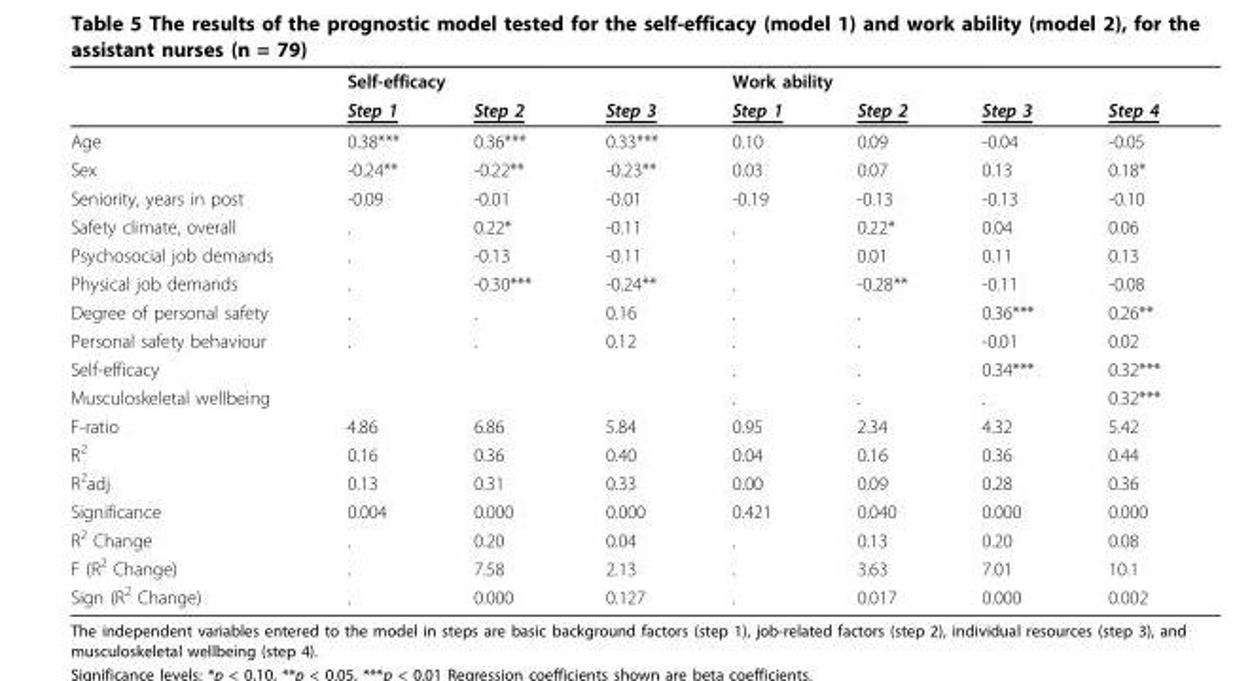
<table><thead><tr><td rowspan="2"></td><td colspan="3">Self-efficacy</td><td colspan="4">Work ability</td></tr><tr><td>Step 1</td><td>Step 2</td><td>Step 3</td><td>Step 1</td><td>Step 2</td><td>Step 3</td><td>Step 4</td></tr></thead><tbody><tr><td>Age</td><td>0.38***</td><td>0.36***</td><td>0.33***</td><td>0.10</td><td>0.09</td><td>-0.04</td><td>-0.05</td></tr><tr><td>Sex</td><td>-0.24**</td><td>-0.22**</td><td>-0.23**</td><td>0.03</td><td>0.07</td><td>0.13</td><td>0.18*</td></tr><tr><td>Seniority, years in post</td><td>-0.09</td><td>-0.01</td><td>-0.01</td><td>-0.19</td><td>-0.13</td><td>-0.13</td><td>-0.10</td></tr><tr><td>Safety climate, overall</td><td>.</td><td>0.22*</td><td>-0.11</td><td>.</td><td>0.22*</td><td>0.04</td><td>0.06</td></tr><tr><td>Psychosocial job demands</td><td>.</td><td>-0.13</td><td>-0.11</td><td>.</td><td>0.01</td><td>0.11</td><td>0.13</td></tr><tr><td>Physical job demands</td><td>.</td><td>-0.30***</td><td>-0.24**</td><td>.</td><td>-0.28**</td><td>-0.11</td><td>-0.08</td></tr><tr><td>Degree of personal safety</td><td>.</td><td>.</td><td>0.16</td><td>.</td><td>.</td><td>0.36***</td><td>0.26**</td></tr><tr><td>Personal safety behaviour</td><td>.</td><td>.</td><td>0.12</td><td>.</td><td>.</td><td>-0.01</td><td>0.02</td></tr><tr><td>Self-efficacy</td><td></td><td></td><td></td><td>.</td><td>.</td><td>0.34***</td><td>0.32***</td></tr><tr><td>Musculoskeletal wellbeing</td><td></td><td></td><td></td><td>.</td><td>.</td><td>.</td><td>0.32***</td></tr><tr><td>F-ratio</td><td>4.86</td><td>6.86</td><td>5.84</td><td>0.95</td><td>2.34</td><td>4.32</td><td>5.42</td></tr><tr><td>R<sup>2</sup></td><td>0.16</td><td>0.36</td><td>0.40</td><td>0.04</td><td>0.16</td><td>0.36</td><td>0.44</td></tr><tr><td>R<sup>2</sup>adj</td><td>0.13</td><td>0.31</td><td>0.33</td><td>0.00</td><td>0.09</td><td>0.28</td><td>0.36</td></tr><tr><td>Significance</td><td>0.004</td><td>0.000</td><td>0.000</td><td>0.421</td><td>0.040</td><td>0.000</td><td>0.000</td></tr><tr><td>R<sup>2</sup> Change</td><td>.</td><td>0.20</td><td>0.04</td><td>.</td><td>0.13</td><td>0.20</td><td>0.08</td></tr><tr><td>F (R<sup>2</sup> Change)</td><td>.</td><td>7.58</td><td>2.13</td><td>.</td><td>3.63</td><td>7.01</td><td>10.1</td></tr><tr><td>Sign (R<sup>2</sup> Change)</td><td>.</td><td>0.000</td><td>0.127</td><td>.</td><td>0.017</td><td>0.000</td><td>0.002</td></tr></tbody></table>